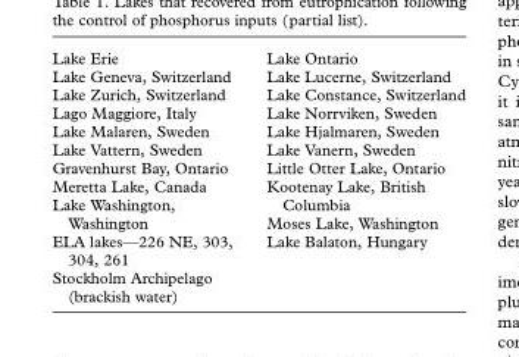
<table><tbody><tr><td>Lake Erie</td><td>Lake Ontario</td></tr><tr><td>Lake Geneva, Switzerland</td><td>Lake Lucerne, Switzerland</td></tr><tr><td>Lake Zurich, Switzerland</td><td>Lake Constance, Switzerland</td></tr><tr><td>Lago Maggiore, Italy</td><td>Lake Norrviken, Sweden</td></tr><tr><td>Lake Malaren, Sweden</td><td>Lake Hjalmaren, Sweden</td></tr><tr><td>Lake Vattern, Sweden</td><td>Lake Vanern, Sweden</td></tr><tr><td>Gravenhurst Bay, Ontario</td><td>Little Otter Lake, Ontario</td></tr><tr><td>Meretta Lake, Canada Lake Washington,</td><td>Kootenay Lake, British Columbia</td></tr><tr><td>Washington</td><td>Moses Lake, Washington</td></tr><tr><td>ELA lakes—226 NE, 303, 304, 261</td><td>Lake Balaton, Hungary</td></tr><tr><td>Stockholm Archipelago (brackish water)</td><td></td></tr></tbody></table>